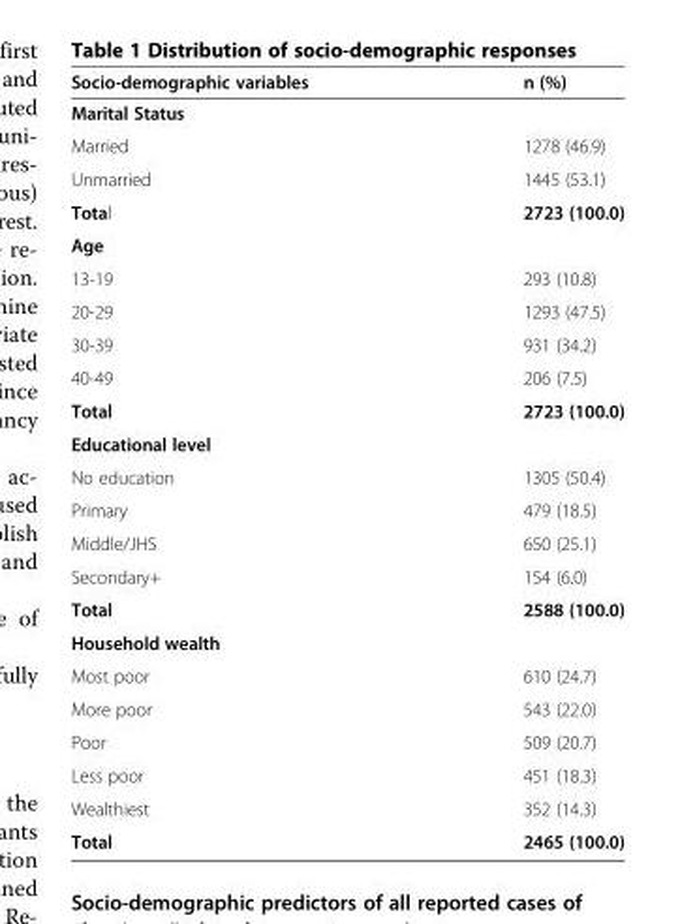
<table><thead><tr><td>Socio-demographic variables</td><td>n (%)</td></tr></thead><tbody><tr><td colspan="2">Marital Status</td></tr><tr><td>Married</td><td>1278 (46.9)</td></tr><tr><td>Unmarried</td><td>1445 (53.1)</td></tr><tr><td>Total</td><td>2723 (100.0)</td></tr><tr><td colspan="2">Age</td></tr><tr><td>13-19</td><td>293 (10.8)</td></tr><tr><td>20-29</td><td>1293 (47.5)</td></tr><tr><td>30-39</td><td>931 (34.2)</td></tr><tr><td>40-49</td><td>206 (7.5)</td></tr><tr><td>Total</td><td>2723 (100.0)</td></tr><tr><td colspan="2">Educational level</td></tr><tr><td>No education</td><td>1305 (50.4)</td></tr><tr><td>Primary</td><td>479 (18.5)</td></tr><tr><td>Middle/JHS</td><td>650 (25.1)</td></tr><tr><td>Secondary+</td><td>154 (6.0)</td></tr><tr><td>Total</td><td>2588 (100.0)</td></tr><tr><td colspan="2">Household wealth</td></tr><tr><td>Most poor</td><td>610 (24.7)</td></tr><tr><td>More poor</td><td>543 (22.0)</td></tr><tr><td>Poor</td><td>509 (20.7)</td></tr><tr><td>Less poor</td><td>451 (18.3)</td></tr><tr><td>Wealthiest</td><td>352 (14.3)</td></tr><tr><td>Total</td><td>2465 (100.0)</td></tr></tbody></table>